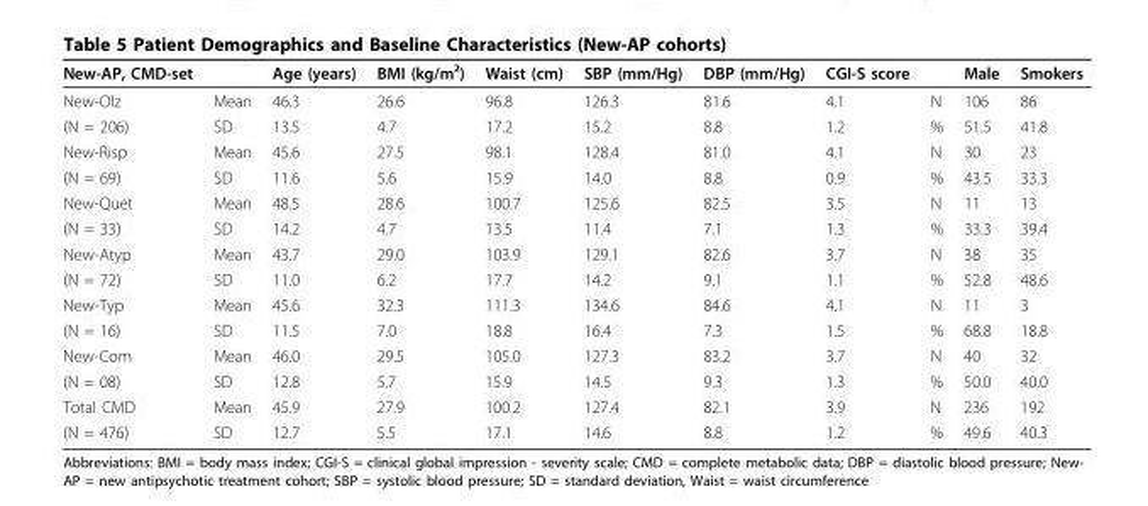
<table><thead><tr><td>New-AP, CMD-set</td><td></td><td>Age (years)</td><td>BMI (kg/m²)</td><td>Waist (cm)</td><td>SBP (mm/Hg)</td><td>DBP (mm/Hg)</td><td>CGI-S score</td><td></td><td>Male</td><td>Smokers</td></tr></thead><tbody><tr><td>New-Olz</td><td>Mean</td><td>46.3</td><td>26.6</td><td>96.8</td><td>126.3</td><td>81.6</td><td>4.1</td><td>N</td><td>106</td><td>86</td></tr><tr><td>(N = 206)</td><td>SD</td><td>13.5</td><td>4.7</td><td>17.2</td><td>15.2</td><td>8.8</td><td>1.2</td><td>%</td><td>51.5</td><td>41.8</td></tr><tr><td>New-Risp</td><td>Mean</td><td>45.6</td><td>27.5</td><td>98.1</td><td>128.4</td><td>81.0</td><td>4.1</td><td>N</td><td>30</td><td>23</td></tr><tr><td>(N = 69)</td><td>SD</td><td>11.6</td><td>5.6</td><td>15.9</td><td>14.0</td><td>8.8</td><td>0.9</td><td>%</td><td>43.5</td><td>33.3</td></tr><tr><td>New-Quet</td><td>Mean</td><td>48.5</td><td>28.6</td><td>100.7</td><td>125.6</td><td>82.5</td><td>3.5</td><td>N</td><td>11</td><td>13</td></tr><tr><td>(N = 33)</td><td>SD</td><td>14.2</td><td>4.7</td><td>13.5</td><td>11.4</td><td>7.1</td><td>1.3</td><td>%</td><td>33.3</td><td>39.4</td></tr><tr><td>New-Atyp</td><td>Mean</td><td>43.7</td><td>29.0</td><td>103.9</td><td>129.1</td><td>82.6</td><td>3.7</td><td>N</td><td>38</td><td>35</td></tr><tr><td>(N = 72)</td><td>SD</td><td>11.0</td><td>6.2</td><td>17.7</td><td>14.2</td><td>9.1</td><td>1.1</td><td>%</td><td>52.8</td><td>48.6</td></tr><tr><td>New-Typ</td><td>Mean</td><td>45.6</td><td>32.3</td><td>111.3</td><td>134.6</td><td>84.6</td><td>4.1</td><td>N</td><td>11</td><td>3</td></tr><tr><td>(N = 16)</td><td>SD</td><td>11.5</td><td>7.0</td><td>18.8</td><td>16.4</td><td>7.3</td><td>1.5</td><td>%</td><td>68.8</td><td>18.8</td></tr><tr><td>New-Com</td><td>Mean</td><td>46.0</td><td>29.5</td><td>105.0</td><td>127.3</td><td>83.2</td><td>3.7</td><td>N</td><td>40</td><td>32</td></tr><tr><td>(N = 08)</td><td>SD</td><td>12.8</td><td>5.7</td><td>15.9</td><td>14.5</td><td>9.3</td><td>1.3</td><td>%</td><td>50.0</td><td>40.0</td></tr><tr><td>Total CMD</td><td>Mean</td><td>45.9</td><td>27.9</td><td>100.2</td><td>127.4</td><td>82.1</td><td>3.9</td><td>N</td><td>236</td><td>192</td></tr><tr><td>(N = 476)</td><td>SD</td><td>12.7</td><td>5.5</td><td>17.1</td><td>14.6</td><td>8.8</td><td>1.2</td><td>%</td><td>49.6</td><td>40.3</td></tr></tbody></table>